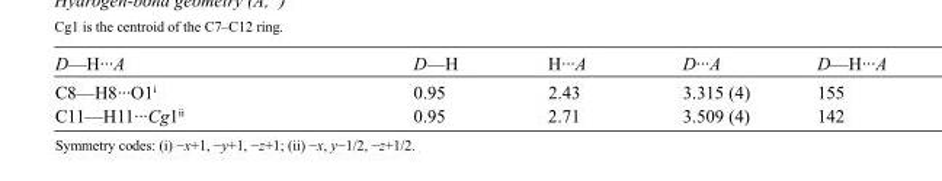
<table><tbody><tr><td>D—H···A</td><td>D—H</td><td>H···A</td><td>D···A</td><td>D—H···A</td></tr><tr><td>C8—H8···O1<sup>i</sup></td><td>0.95</td><td>2.43</td><td>3.315 (4)</td><td>155</td></tr><tr><td>C11—H11···Cg1<sup>ii</sup></td><td>0.95</td><td>2.71</td><td>3.509 (4)</td><td>142</td></tr></tbody></table>